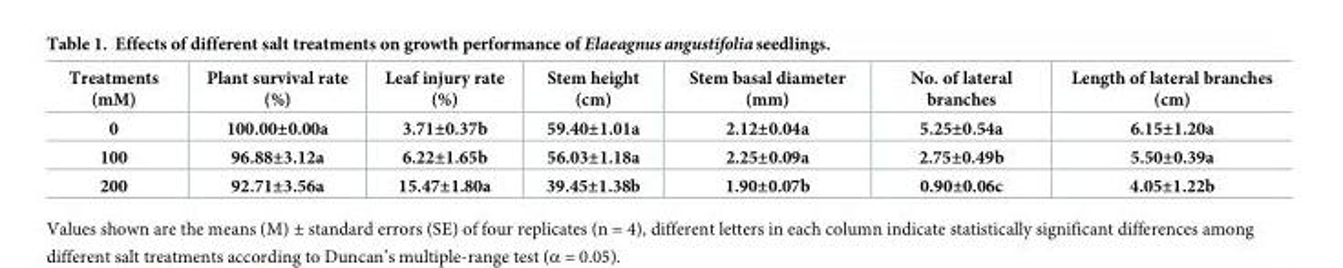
<table><thead><tr><td>Treatments (mM)</td><td>Plant survival rate (%)</td><td>Leaf injury rate (%)</td><td>Stem height (cm)</td><td>Stem basal diameter (mm)</td><td>No. of lateral branches</td><td>Length of lateral branches (cm)</td></tr></thead><tbody><tr><td>0</td><td>100.00±0.00a</td><td>3.71±0.37b</td><td>59.40±1.01a</td><td>2.12±0.04a</td><td>5.25±0.54a</td><td>6.15±1.20a</td></tr><tr><td>100</td><td>96.88±3.12a</td><td>6.22±1.65b</td><td>56.03±1.18a</td><td>2.25±0.09a</td><td>2.75±0.49b</td><td>5.50±0.39a</td></tr><tr><td>200</td><td>92.71±3.56a</td><td>15.47±1.80a</td><td>39.45±1.38b</td><td>1.90±0.07b</td><td>0.90±0.06c</td><td>4.05±1.22b</td></tr></tbody></table>